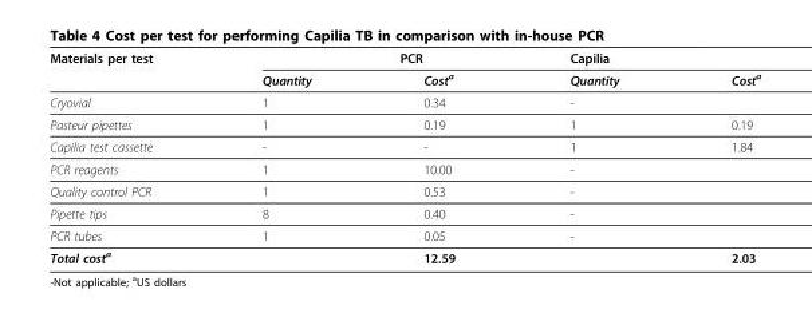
<table><thead><tr><td rowspan="2">Materials per test</td><td colspan="2">PCR</td><td colspan="2">Capilia</td></tr><tr><td>Quantity</td><td>Cost<sup>a</sup></td><td>Quantity</td><td>Cost<sup>a</sup></td></tr></thead><tbody><tr><td>Cryovial</td><td>1</td><td>0.34</td><td>-</td><td></td></tr><tr><td>Pasteur pipettes</td><td>1</td><td>0.19</td><td>1</td><td>0.19</td></tr><tr><td>Capilia test cassette</td><td>-</td><td>-</td><td>1</td><td>1.84</td></tr><tr><td>PCR reagents</td><td>1</td><td>10.00</td><td>-</td><td></td></tr><tr><td>Quality control PCR</td><td>1</td><td>0.53</td><td>-</td><td></td></tr><tr><td>Pipette tips</td><td>8</td><td>0.40</td><td>-</td><td></td></tr><tr><td>PCR tubes</td><td>1</td><td>0.05</td><td>-</td><td></td></tr><tr><td>Total cost<sup>a</sup></td><td></td><td>12.59</td><td></td><td>2.03</td></tr></tbody></table>